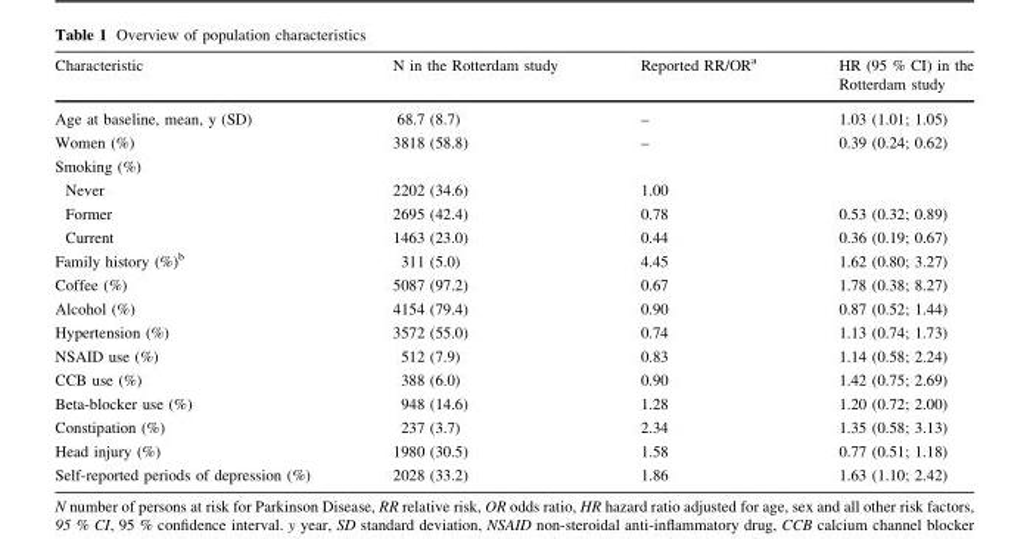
<table><thead><tr><td>Characteristic</td><td>N in the Rotterdam study</td><td>Reported RR/OR<sup>a</sup></td><td>HR (95 % CI) in the Rotterdam study</td></tr></thead><tbody><tr><td>Age at baseline, mean, y (SD)</td><td>68.7 (8.7)</td><td>–</td><td>1.03 (1.01; 1.05)</td></tr><tr><td>Women (%)</td><td>3818 (58.8)</td><td>–</td><td>0.39 (0.24; 0.62)</td></tr><tr><td colspan="4">Smoking (%)</td></tr><tr><td>Never</td><td>2202 (34.6)</td><td>1.00</td><td></td></tr><tr><td>Former</td><td>2695 (42.4)</td><td>0.78</td><td>0.53 (0.32; 0.89)</td></tr><tr><td>Current</td><td>1463 (23.0)</td><td>0.44</td><td>0.36 (0.19; 0.67)</td></tr><tr><td>Family history (%)<sup>b</sup></td><td>311 (5.0)</td><td>4.45</td><td>1.62 (0.80; 3.27)</td></tr><tr><td>Coffee (%)</td><td>5087 (97.2)</td><td>0.67</td><td>1.78 (0.38; 8.27)</td></tr><tr><td>Alcohol (%)</td><td>4154 (79.4)</td><td>0.90</td><td>0.87 (0.52; 1.44)</td></tr><tr><td>Hypertension (%)</td><td>3572 (55.0)</td><td>0.74</td><td>1.13 (0.74; 1.73)</td></tr><tr><td>NSAID use (%)</td><td>512 (7.9)</td><td>0.83</td><td>1.14 (0.58; 2.24)</td></tr><tr><td>CCB use (%)</td><td>388 (6.0)</td><td>0.90</td><td>1.42 (0.75; 2.69)</td></tr><tr><td>Beta-blocker use (%)</td><td>948 (14.6)</td><td>1.28</td><td>1.20 (0.72; 2.00)</td></tr><tr><td>Constipation (%)</td><td>237 (3.7)</td><td>2.34</td><td>1.35 (0.58; 3.13)</td></tr><tr><td>Head injury (%)</td><td>1980 (30.5)</td><td>1.58</td><td>0.77 (0.51; 1.18)</td></tr><tr><td>Self-reported periods of depression (%)</td><td>2028 (33.2)</td><td>1.86</td><td>1.63 (1.10; 2.42)</td></tr></tbody></table>